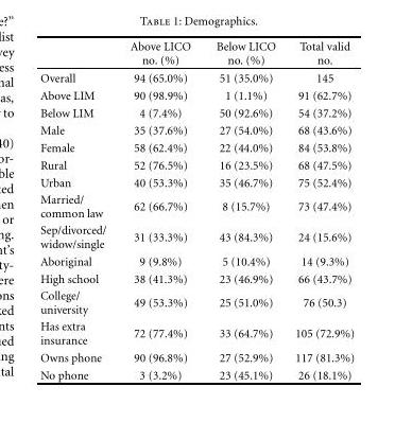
<table><thead><tr><td></td><td>Above LICO no. (%)</td><td>Below LICO no. (%)</td><td>Total valid no.</td></tr></thead><tbody><tr><td>Overall</td><td>94 (65.0%)</td><td>51 (35.0%)</td><td>145</td></tr><tr><td>Above LIM</td><td>90 (98.9%)</td><td>1 (1.1%)</td><td>91 (62.7%)</td></tr><tr><td>Below LIM</td><td>4 (7.4%)</td><td>50 (92.6%)</td><td>54 (37.2%)</td></tr><tr><td>Male</td><td>35 (37.6%)</td><td>27 (54.0%)</td><td>68 (43.6%)</td></tr><tr><td>Female</td><td>58 (62.4%)</td><td>22 (44.0%)</td><td>84 (53.8%)</td></tr><tr><td>Rural</td><td>52 (76.5%)</td><td>16 (23.5%)</td><td>68 (47.5%)</td></tr><tr><td>Urban</td><td>40 (53.3%)</td><td>35 (46.7%)</td><td>75 (52.4%)</td></tr><tr><td>Married/ common law</td><td>62 (66.7%)</td><td>8 (15.7%)</td><td>73 (47.4%)</td></tr><tr><td>Sep/divorced/ widow/single</td><td>31 (33.3%)</td><td>43 (84.3%)</td><td>24 (15.6%)</td></tr><tr><td>Aboriginal</td><td>9 (9.8%)</td><td>5 (10.4%)</td><td>14 (9.3%)</td></tr><tr><td>High school</td><td>38 (41.3%)</td><td>23 (46.9%)</td><td>66 (43.7%)</td></tr><tr><td>College/ university</td><td>49 (53.3%)</td><td>25 (51.0%)</td><td>76 (50.3)</td></tr><tr><td>Has extra insurance</td><td>72 (77.4%)</td><td>33 (64.7%)</td><td>105 (72.9%)</td></tr><tr><td>Owns phone</td><td>90 (96.8%)</td><td>27 (52.9%)</td><td>117 (81.3%)</td></tr><tr><td>No phone</td><td>3 (3.2%)</td><td>23 (45.1%)</td><td>26 (18.1%)</td></tr></tbody></table>